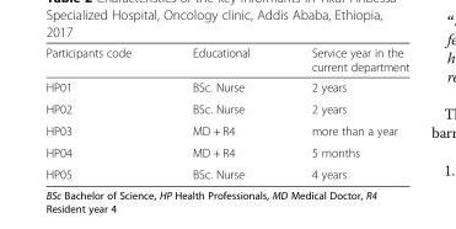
<table><thead><tr><td>Participants code</td><td>Educational</td><td>Service year in the current department</td></tr></thead><tbody><tr><td>HP01</td><td>BSc. Nurse</td><td>2 years</td></tr><tr><td>HP02</td><td>BSc. Nurse</td><td>2 years</td></tr><tr><td>HP03</td><td>MD + R4</td><td>more than a year</td></tr><tr><td>HP04</td><td>MD + R4</td><td>5 months</td></tr><tr><td>HP05</td><td>BSc. Nurse</td><td>4 years</td></tr></tbody></table>